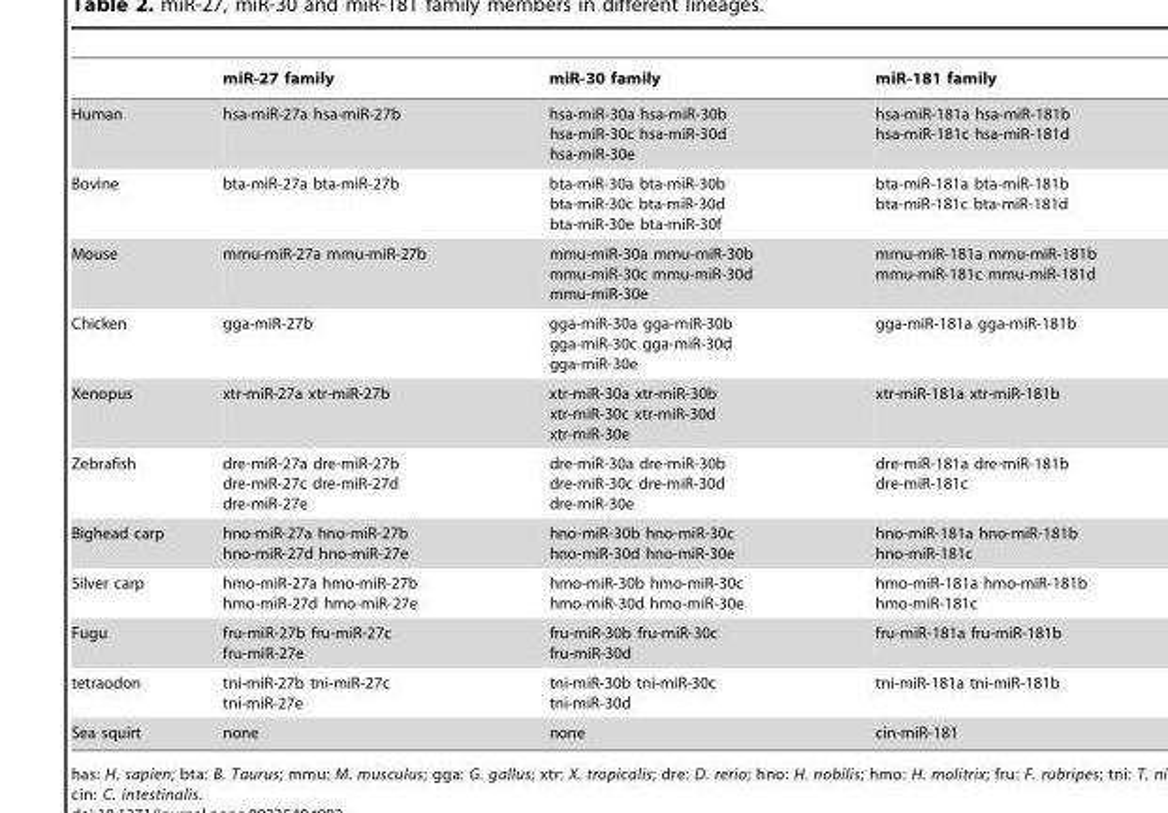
<table><thead><tr><td></td><td>miR-27 family</td><td>miR-30 family</td><td>miR-181 family</td></tr></thead><tbody><tr><td>Human</td><td>hsa-miR-27a hsa-miR-27b</td><td>hsa-miR-30a hsa-miR-30b hsa-miR-30c hsa-miR-30d hsa-miR-30e</td><td>hsa-miR-181a hsa-miR-181b hsa-miR-181c hsa-miR-181d</td></tr><tr><td>Bovine</td><td>bta-miR-27a bta-miR-27b</td><td>bta-miR-30a bta-miR-30b bta-miR-30c bta-miR-30d bta-miR-30e bta-miR-30f</td><td>bta-miR-181a bta-miR-181b bta-miR-181c bta-miR-181d</td></tr><tr><td>Mouse</td><td>mmu-miR-27a mmu-miR-27b</td><td>mmu-miR-30a mmu-miR-30b mmu-miR-30c mmu-miR-30d mmu-miR-30e</td><td>mmu-miR-181a mmu-miR-181b mmu-miR-181c mmu-miR-181d</td></tr><tr><td>Chicken</td><td>gga-miR-27b</td><td>gga-miR-30a gga-miR-30b gga-miR-30c gga-miR-30d gga-miR-30e</td><td>gga-miR-181a gga-miR-181b</td></tr><tr><td>Xenopus</td><td>xtr-miR-27a xtr-miR-27b</td><td>xtr-miR-30a xtr-miR-30b xtr-miR-30c xtr-miR-30d xtr-miR-30e</td><td>xtr-miR-181a xtr-miR-181b</td></tr><tr><td>Zebrafish</td><td>dre-miR-27a dre-miR-27b dre-miR-27c dre-miR-27d dre-miR-27e</td><td>dre-miR-30a dre-miR-30b dre-miR-30c dre-miR-30d dre-miR-30e</td><td>dre-miR-181a dre-miR-181b dre-miR-181c</td></tr><tr><td>Bighead carp</td><td>hno-miR-27a hno-miR-27b hno-miR-27d hno-miR-27e</td><td>hno-miR-30b hno-miR-30c hno-miR-30d hno-miR-30e</td><td>hno-miR-181a hno-miR-181b hno-miR-181c</td></tr><tr><td>Silver carp</td><td>hmo-miR-27a hmo-miR-27b hmo-miR-27d hmo-miR-27e</td><td>hmo-miR-30b hmo-miR-30c hmo-miR-30d hmo-miR-30e</td><td>hmo-miR-181a hmo-miR-181b hmo-miR-181c</td></tr><tr><td>Fugu</td><td>fru-miR-27b fru-miR-27c fru-miR-27e</td><td>fru-miR-30b fru-miR-30c fru-miR-30d</td><td>fru-miR-181a fru-miR-181b</td></tr><tr><td>tetraodon</td><td>tni-miR-27b tni-miR-27c tni-miR-27e</td><td>tni-miR-30b tni-miR-30c tni-miR-30d</td><td>tni-miR-181a tni-miR-181b</td></tr><tr><td>Sea squirt</td><td>none</td><td>none</td><td>cin-miR-181</td></tr></tbody></table>